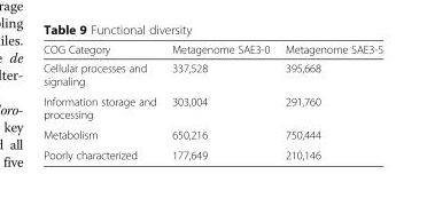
<table><thead><tr><td>COG Category</td><td>Metagenome SAE3-0</td><td>Metagenome SAE3-5</td></tr></thead><tbody><tr><td>Cellular processes and signaling</td><td>337,528</td><td>395,668</td></tr><tr><td>Information storage and processing</td><td>303,004</td><td>291,760</td></tr><tr><td>Metabolism</td><td>650,216</td><td>750,444</td></tr><tr><td>Poorly characterized</td><td>177,649</td><td>210,146</td></tr></tbody></table>